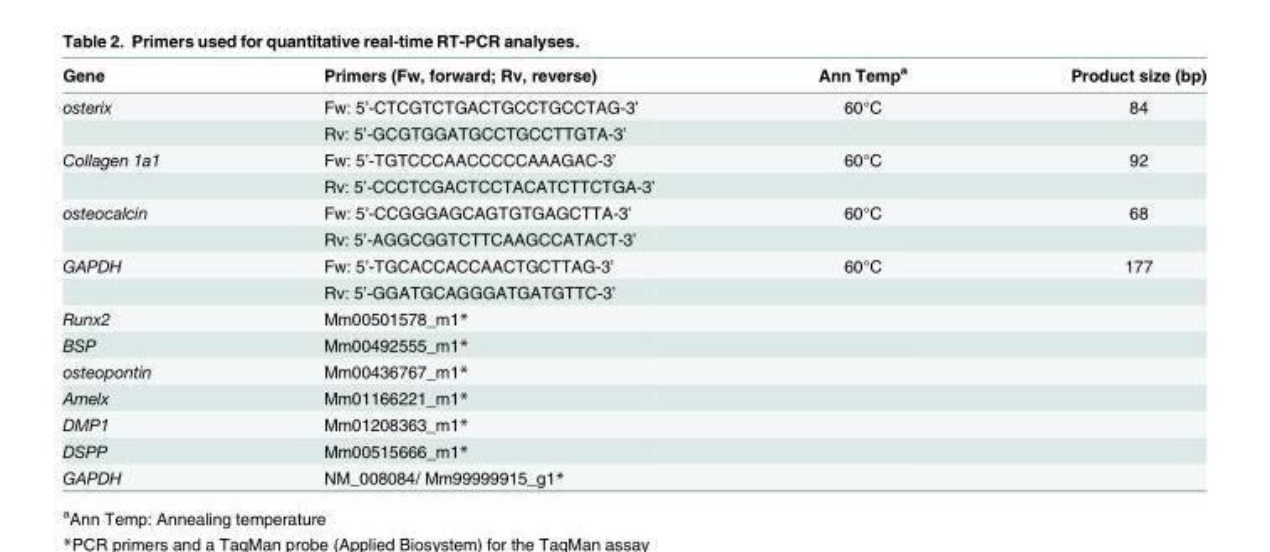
<table><thead><tr><td>Gene</td><td>Primers (Fw, forward; Rv, reverse)</td><td>Ann Temp<sup>a</sup></td><td>Product size (bp)</td></tr></thead><tbody><tr><td rowspan="2">osterix</td><td>Fw: 5’-CTCGTCTGACTGCCTGCCTAG-3’</td><td>60°C</td><td>84</td></tr><tr><td>Rv: 5’-GCGTGGATGCCTGCCTTGTA-3’</td><td></td><td></td></tr><tr><td rowspan="2">Collagen 1a1</td><td>Fw: 5’-TGTCCCAACCCCCAAAGAC-3’</td><td>60°C</td><td>92</td></tr><tr><td>Rv: 5’-CCCTCGACTCCTACATCTTCTGA-3’</td><td></td><td></td></tr><tr><td rowspan="2">osteocalcin</td><td>Fw: 5’-CCGGGAGCAGTGTGAGCTTA-3’</td><td>60°C</td><td>68</td></tr><tr><td>Rv: 5’-AGGCGGTCTTCAAGCCATACT-3’</td><td></td><td></td></tr><tr><td rowspan="2">GAPDH</td><td>Fw: 5’-TGCACCACCAACTGCTTAG-3’</td><td>60°C</td><td>177</td></tr><tr><td>Rv: 5’-GGATGCAGGGATGATGTTC-3’</td><td></td><td></td></tr><tr><td>Runx2</td><td>Mm00501578_m1*</td><td></td><td></td></tr><tr><td>BSP</td><td>Mm00492555_m1*</td><td></td><td></td></tr><tr><td>osteopontin</td><td>Mm00436767_m1*</td><td></td><td></td></tr><tr><td>Amelx</td><td>Mm01166221_m1*</td><td></td><td></td></tr><tr><td>DMP1</td><td>Mm01208363_m1*</td><td></td><td></td></tr><tr><td>DSPP</td><td>Mm00515666_m1*</td><td></td><td></td></tr><tr><td>GAPDH</td><td>NM_008084/ Mm99999915_g1*</td><td></td><td></td></tr></tbody></table>